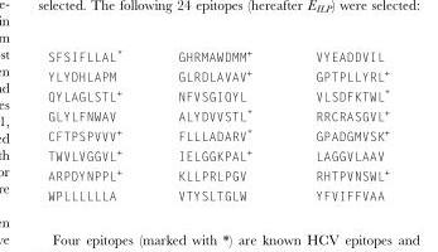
<table><tbody><tr><td>SFSIFLLAL*</td><td>GHRMAWDMM<sup>+</sup></td><td>VYEADDVIL</td></tr><tr><td>YLYDHLAPM</td><td>GLRDLAVAV<sup>+</sup></td><td>GPTPLLYRL<sup>+</sup></td></tr><tr><td>QYLAGLSTL<sup>+</sup></td><td>NFVSGIQYL</td><td>VLSDFKTWL*</td></tr><tr><td>GLYLFNWAV</td><td>ALYDVVSTL*</td><td>RRCRASGVL<sup>+</sup></td></tr><tr><td>CFTPSPVVV<sup>+</sup></td><td>FLLLADARV*</td><td>GPADGMVSK<sup>+</sup></td></tr><tr><td>TWVLVGGVL<sup>+</sup></td><td>IELGGKPAL<sup>+</sup></td><td>LAGGVLAAV</td></tr><tr><td>ARPDYNPPL<sup>+</sup></td><td>KLLPRLPGV</td><td>RHTPVNSWL<sup>+</sup></td></tr><tr><td>WPLLLLLLA</td><td>VTYSLTGLW</td><td>YFVIFFVAA</td></tr></tbody></table>